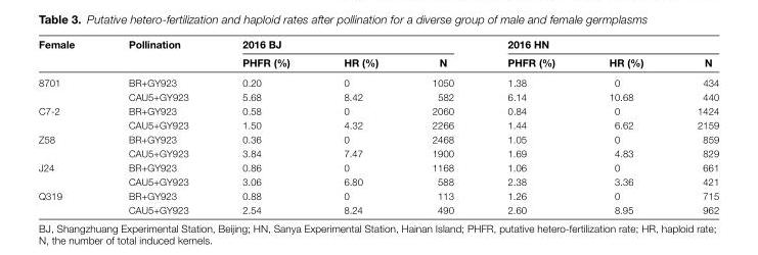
<table><thead><tr><td rowspan="2">Female</td><td rowspan="2">Pollination</td><td colspan="3">2016 BJ</td><td colspan="3">2016 HN</td></tr><tr><td>PHFR (%)</td><td>HR (%)</td><td>N</td><td>PHFR (%)</td><td>HR (%)</td><td>N</td></tr></thead><tbody><tr><td rowspan="2">8701</td><td>BR+GY923</td><td>0.20</td><td>0</td><td>1050</td><td>1.38</td><td>0</td><td>434</td></tr><tr><td>CAU5+GY923</td><td>5.68</td><td>8.42</td><td>582</td><td>6.14</td><td>10.68</td><td>440</td></tr><tr><td rowspan="2">C7-2</td><td>BR+GY923</td><td>0.58</td><td>0</td><td>2060</td><td>0.84</td><td>0</td><td>1424</td></tr><tr><td>CAU5+GY923</td><td>1.50</td><td>4.32</td><td>2266</td><td>1.44</td><td>6.62</td><td>2159</td></tr><tr><td rowspan="2">Z58</td><td>BR+GY923</td><td>0.36</td><td>0</td><td>2468</td><td>1.05</td><td>0</td><td>859</td></tr><tr><td>CAU5+GY923</td><td>3.84</td><td>7.47</td><td>1900</td><td>1.69</td><td>4.83</td><td>829</td></tr><tr><td rowspan="2">J24</td><td>BR+GY923</td><td>0.86</td><td>0</td><td>1168</td><td>1.06</td><td>0</td><td>661</td></tr><tr><td>CAU5+GY923</td><td>3.06</td><td>6.80</td><td>588</td><td>2.38</td><td>3.36</td><td>421</td></tr><tr><td rowspan="2">Q319</td><td>BR+GY923</td><td>0.88</td><td>0</td><td>113</td><td>1.26</td><td>0</td><td>715</td></tr><tr><td>CAU5+GY923</td><td>2.54</td><td>8.24</td><td>490</td><td>2.60</td><td>8.95</td><td>962</td></tr></tbody></table>